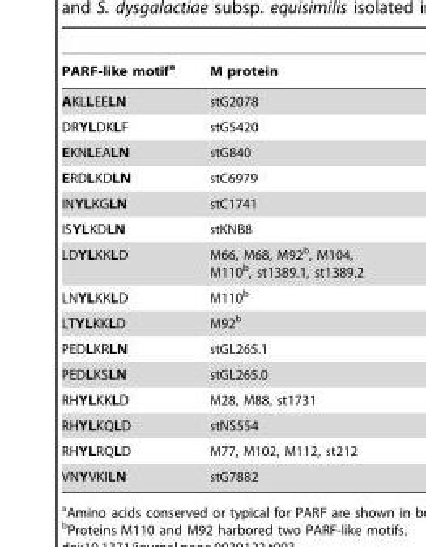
<table><thead><tr><td>PARF-like motif<sup>a</sup></td><td>M protein</td></tr></thead><tbody><tr><td>AKLLEELN</td><td>stG2078</td></tr><tr><td>DRYLDKLF</td><td>stG5420</td></tr><tr><td>EKNLEALN</td><td>stG840</td></tr><tr><td>ERDLKDLN</td><td>stC6979</td></tr><tr><td>INYLKGLN</td><td>stC1741</td></tr><tr><td>ISYLKDLN</td><td>stKNB8</td></tr><tr><td>LDYLKKLD</td><td>M66, M68, M92<sup>b</sup>, M104, M110<sup>b</sup>, st1389.1, st1389.2</td></tr><tr><td>LNYLKKLD</td><td>M110<sup>b</sup></td></tr><tr><td>LTYLKKLD</td><td>M92<sup>b</sup></td></tr><tr><td>PEDLKRLN</td><td>stGL265.1</td></tr><tr><td>PEDLKSLN</td><td>stGL265.0</td></tr><tr><td>RHYLKKLD</td><td>M28, M88, st1731</td></tr><tr><td>RHYLKQLD</td><td>stNS554</td></tr><tr><td>RHYLRQLD</td><td>M77, M102, M112, st212</td></tr><tr><td>VNYVKILN</td><td>stG7882</td></tr></tbody></table>